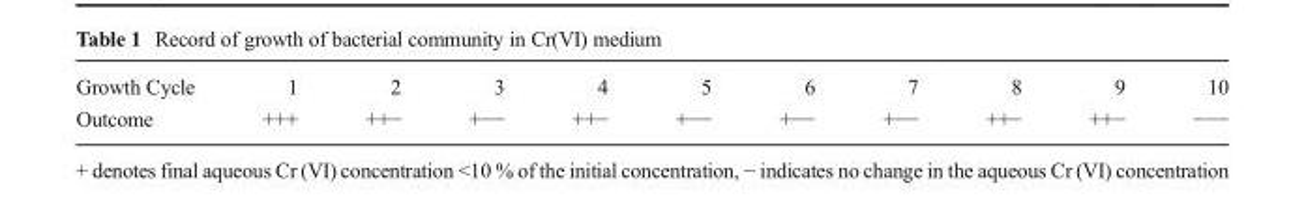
<table><tbody><tr><td>Growth Cycle</td><td>1</td><td>2</td><td>3</td><td>4</td><td>5</td><td>6</td><td>7</td><td>8</td><td>9</td><td>10</td></tr><tr><td>Outcome</td><td>+++</td><td>++−</td><td>+−−</td><td>++−</td><td>+−−</td><td>+−−</td><td>+−−</td><td>++−</td><td>++−</td><td>−−−</td></tr></tbody></table>